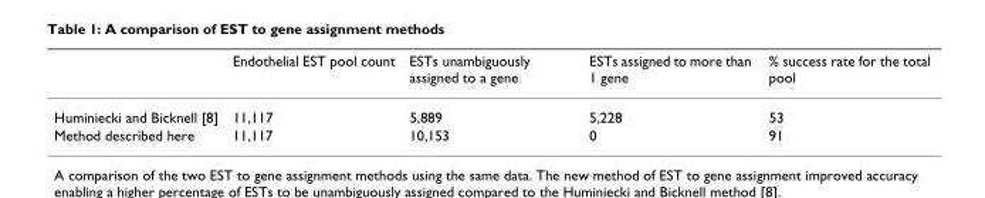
<table><thead><tr><td></td><td>Endothelial EST pool count</td><td>ESTs unambiguously assigned to a gene</td><td>ESTs assigned to more than 1 gene</td><td>% success rate for the total pool</td></tr></thead><tbody><tr><td>Huminiecki and Bicknell [8]</td><td>11,117</td><td>5,889</td><td>5,228</td><td>53</td></tr><tr><td>Method described here</td><td>11,117</td><td>10,153</td><td>0</td><td>91</td></tr></tbody></table>